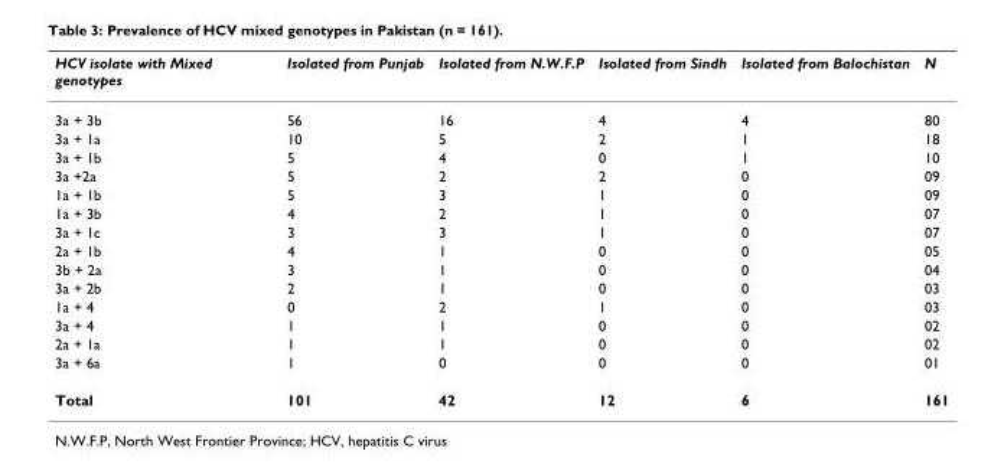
<table><thead><tr><td>HCV isolate with Mixed genotypes</td><td>Isolated from Punjab</td><td>Isolated from N.W.F.P</td><td>Isolated from Sindh</td><td>Isolated from Balochistan</td><td>N</td></tr></thead><tbody><tr><td>3a + 3b</td><td>56</td><td>16</td><td>4</td><td>4</td><td>80</td></tr><tr><td>3a + 1a</td><td>10</td><td>5</td><td>2</td><td>1</td><td>18</td></tr><tr><td>3a + 1b</td><td>5</td><td>4</td><td>0</td><td>1</td><td>10</td></tr><tr><td>3a +2a</td><td>5</td><td>2</td><td>2</td><td>0</td><td>09</td></tr><tr><td>1a + 1b</td><td>5</td><td>3</td><td>1</td><td>0</td><td>09</td></tr><tr><td>1a + 3b</td><td>4</td><td>2</td><td>1</td><td>0</td><td>07</td></tr><tr><td>3a + 1c</td><td>3</td><td>3</td><td>1</td><td>0</td><td>07</td></tr><tr><td>2a + 1b</td><td>4</td><td>1</td><td>0</td><td>0</td><td>05</td></tr><tr><td>3b + 2a</td><td>3</td><td>1</td><td>0</td><td>0</td><td>04</td></tr><tr><td>3a + 2b</td><td>2</td><td>1</td><td>0</td><td>0</td><td>03</td></tr><tr><td>1a + 4</td><td>0</td><td>2</td><td>1</td><td>0</td><td>03</td></tr><tr><td>3a + 4</td><td>1</td><td>1</td><td>0</td><td>0</td><td>02</td></tr><tr><td>2a + 1a</td><td>1</td><td>1</td><td>0</td><td>0</td><td>02</td></tr><tr><td>3a + 6a</td><td>1</td><td>0</td><td>0</td><td>0</td><td>01</td></tr><tr><td>Total</td><td>101</td><td>42</td><td>12</td><td>6</td><td>161</td></tr></tbody></table>